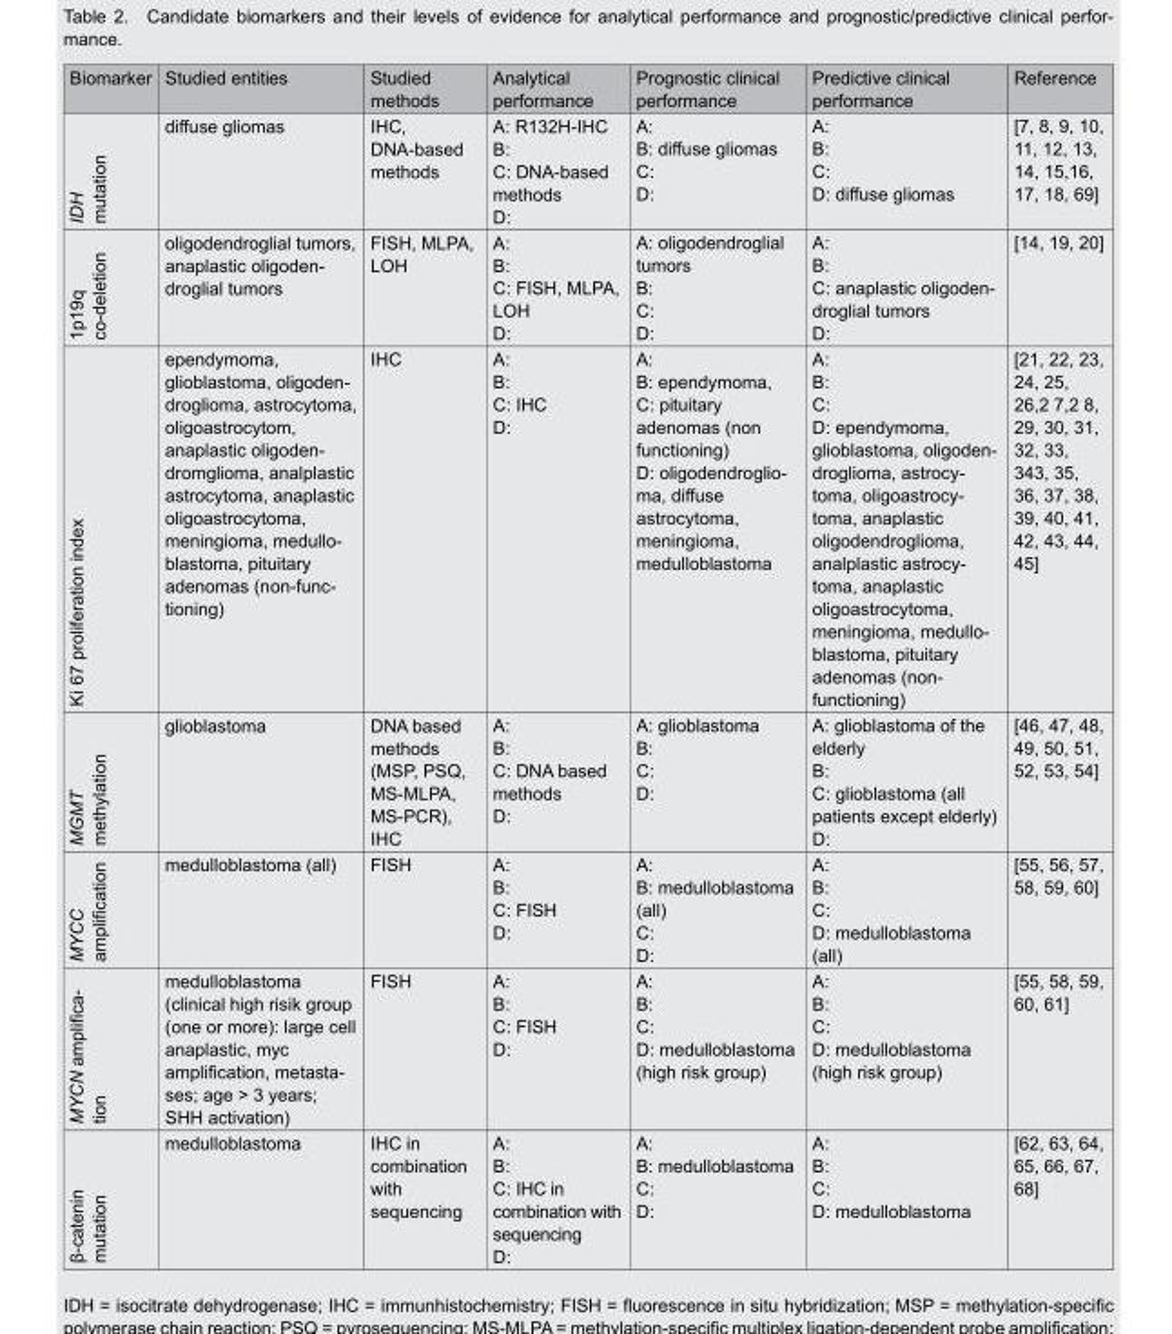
<table><thead><tr><td>Biomarker</td><td>Studied entities</td><td>Studied methods</td><td>Analytical performance</td><td>Prognostic clinical performance</td><td>Predictive clinical performance</td><td>Reference</td></tr></thead><tbody><tr><td>IDH mutation</td><td>diffuse gliomas</td><td>IHC, DNA-based methods</td><td>A: R132H-IHC B: C: DNA-based methods D:</td><td>A: B: diffuse gliomas C: D:</td><td>A: B: C: D: diffuse gliomas</td><td>[7, 8, 9, 10, 11, 12, 13, 14, 15,16, 17, 18, 69]</td></tr><tr><td>1p19q co-deletion</td><td>oligodendroglial tumors, anaplastic oligoden- droglial tumors</td><td>FISH, MLPA, LOH</td><td>A: B: C: FISH, MLPA, LOH D:</td><td>A: oligodendroglial tumors B: C: D:</td><td>A: B: C: anaplastic oligoden- droglial tumors D:</td><td>[14, 19, 20]</td></tr><tr><td>Ki 67 proliferation index</td><td>ependymoma, glioblastoma, oligoden- droglioma, astrocytoma, oligoastrocytom, anaplastic oligoden- dromglioma, analplastic astrocytoma, anaplastic oligoastrocytoma, meningioma, medullo- blastoma, pituitary adenomas (non-func- tioning)</td><td>IHC</td><td>A: B: C: IHC D:</td><td>A: B: ependymoma, C: pituitary adenomas (non functioning) D: oligodendroglio- ma, diffuse astrocytoma, meningioma, medulloblastoma</td><td>A: B: C: D: ependymoma, glioblastoma, oligoden- droglioma, astrocy- toma, oligoastrocy- toma, anaplastic oligodendroglioma, analplastic astrocy- toma, anaplastic oligoastrocytoma, meningioma, medullo- blastoma, pituitary adenomas (non- functioning)</td><td>[21, 22, 23, 24, 25, 26,2 7,2 8, 29, 30, 31, 32, 33, 343, 35, 36, 37, 38, 39, 40, 41, 42, 43, 44, 45]</td></tr><tr><td>MGMT methylation</td><td>glioblastoma</td><td>DNA based methods (MSP, PSQ, MS-MLPA, MS-PCR), IHC</td><td>A: B: C: DNA based methods D:</td><td>A: glioblastoma B: C: D:</td><td>A: glioblastoma of the elderly B: C: glioblastoma (all patients except elderly) D:</td><td>[46, 47, 48, 49, 50, 51, 52, 53, 54]</td></tr><tr><td>MYCC amplification</td><td>medulloblastoma (all)</td><td>FISH</td><td>A: B: C: FISH D:</td><td>A: B: medulloblastoma (all) C: D:</td><td>A: B: C: D: medulloblastoma (all)</td><td>[55, 56, 57, 58, 59, 60]</td></tr><tr><td>MYCN amplifica- tion</td><td>medulloblastoma (clinical high risik group (one or more): large cell anaplastic, myc amplification, metasta- ses; age &gt; 3 years; SHH activation)</td><td>FISH</td><td>A: B: C: FISH D:</td><td>A: B: C: D: medulloblastoma (high risk group)</td><td>A: B: C: D: medulloblastoma (high risk group)</td><td>[55, 58, 59, 60, 61]</td></tr><tr><td>β-catenin mutation</td><td>medulloblastoma</td><td>IHC in combination with sequencing</td><td>A: B: C: IHC in combination with sequencing D:</td><td>A: B: medulloblastoma C: D:</td><td>A: B: C: D: medulloblastoma</td><td>[62, 63, 64, 65, 66, 67, 68]</td></tr></tbody></table>